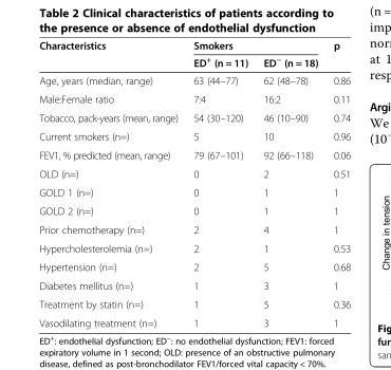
<table><thead><tr><td rowspan="2">Characteristics</td><td colspan="2">Smokers</td><td rowspan="2">p</td></tr><tr><td>ED<sup>+</sup> (n = 11)</td><td>ED<sup>−</sup> (n = 18)</td></tr></thead><tbody><tr><td>Age, years (median, range)</td><td>63 (44–77)</td><td>62 (48–78)</td><td>0.86</td></tr><tr><td>Male:Female ratio</td><td>7:4</td><td>16:2</td><td>0.11</td></tr><tr><td>Tobacco, pack-years (mean, range)</td><td>54 (30–120)</td><td>46 (10–90)</td><td>0.74</td></tr><tr><td>Current smokers (n=)</td><td>5</td><td>10</td><td>0.96</td></tr><tr><td>FEV1, % predicted (mean, range)</td><td>79 (67–101)</td><td>92 (66–118)</td><td>0.06</td></tr><tr><td>OLD (n=)</td><td>0</td><td>2</td><td>0.51</td></tr><tr><td>GOLD 1 (n=)</td><td>0</td><td>1</td><td>1</td></tr><tr><td>GOLD 2 (n=)</td><td>0</td><td>1</td><td>1</td></tr><tr><td>Prior chemotherapy (n=)</td><td>2</td><td>4</td><td>1</td></tr><tr><td>Hypercholesterolemia (n=)</td><td>2</td><td>1</td><td>0.53</td></tr><tr><td>Hypertension (n=)</td><td>2</td><td>5</td><td>0.68</td></tr><tr><td>Diabetes mellitus (n=)</td><td>1</td><td>3</td><td>1</td></tr><tr><td>Treatment by statin (n=)</td><td>1</td><td>5</td><td>0.36</td></tr><tr><td>Vasodilating treatment (n=)</td><td>1</td><td>3</td><td>1</td></tr></tbody></table>